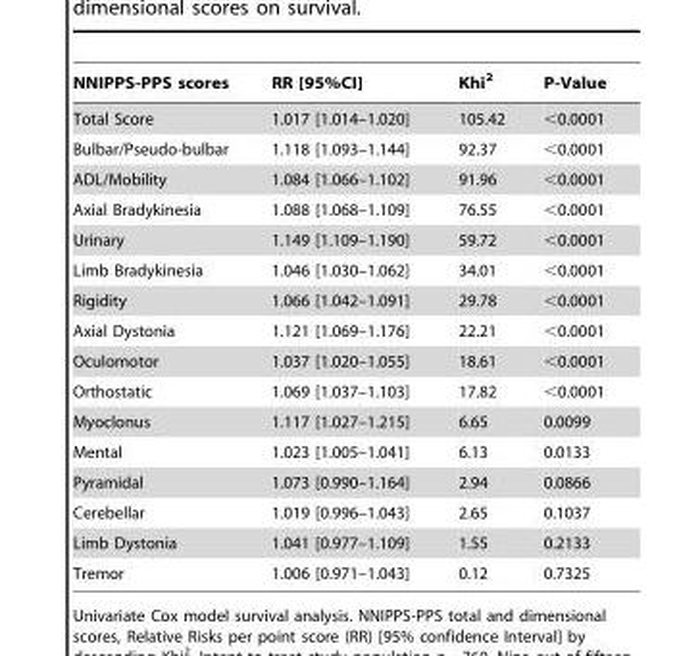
<table><thead><tr><td>NNIPPS-PPS scores</td><td>RR [95%CI]</td><td>Khi<sup>2</sup></td><td>P-Value</td></tr></thead><tbody><tr><td>Total Score</td><td>1.017 [1.014–1.020]</td><td>105.42</td><td>&lt;0.0001</td></tr><tr><td>Bulbar/Pseudo-bulbar</td><td>1.118 [1.093–1.144]</td><td>92.37</td><td>&lt;0.0001</td></tr><tr><td>ADL/Mobility</td><td>1.084 [1.066–1.102]</td><td>91.96</td><td>&lt;0.0001</td></tr><tr><td>Axial Bradykinesia</td><td>1.088 [1.068–1.109]</td><td>76.55</td><td>&lt;0.0001</td></tr><tr><td>Urinary</td><td>1.149 [1.109–1.190]</td><td>59.72</td><td>&lt;0.0001</td></tr><tr><td>Limb Bradykinesia</td><td>1.046 [1.030–1.062]</td><td>34.01</td><td>&lt;0.0001</td></tr><tr><td>Rigidity</td><td>1.066 [1.042–1.091]</td><td>29.78</td><td>&lt;0.0001</td></tr><tr><td>Axial Dystonia</td><td>1.121 [1.069–1.176]</td><td>22.21</td><td>&lt;0.0001</td></tr><tr><td>Oculomotor</td><td>1.037 [1.020–1.055]</td><td>18.61</td><td>&lt;0.0001</td></tr><tr><td>Orthostatic</td><td>1.069 [1.037–1.103]</td><td>17.82</td><td>&lt;0.0001</td></tr><tr><td>Myoclonus</td><td>1.117 [1.027–1.215]</td><td>6.65</td><td>0.0099</td></tr><tr><td>Mental</td><td>1.023 [1.005–1.041]</td><td>6.13</td><td>0.0133</td></tr><tr><td>Pyramidal</td><td>1.073 [0.990–1.164]</td><td>2.94</td><td>0.0866</td></tr><tr><td>Cerebellar</td><td>1.019 [0.996–1.043]</td><td>2.65</td><td>0.1037</td></tr><tr><td>Limb Dystonia</td><td>1.041 [0.977–1.109]</td><td>1.55</td><td>0.2133</td></tr><tr><td>Tremor</td><td>1.006 [0.971–1.043]</td><td>0.12</td><td>0.7325</td></tr></tbody></table>